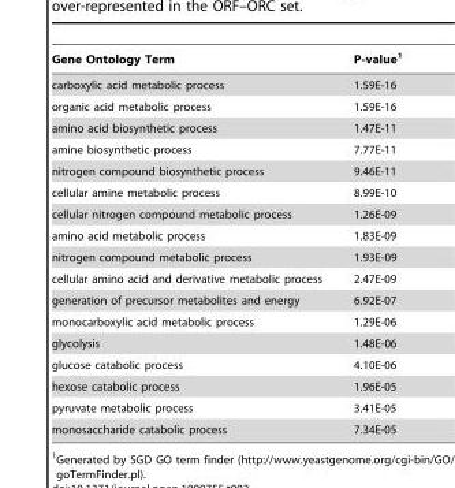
<table><thead><tr><td>Gene Ontology Term</td><td>P-value<sup>1</sup></td></tr></thead><tbody><tr><td>carboxylic acid metabolic process</td><td>1.59E-16</td></tr><tr><td>organic acid metabolic process</td><td>1.59E-16</td></tr><tr><td>amino acid biosynthetic process</td><td>1.47E-11</td></tr><tr><td>amine biosynthetic process</td><td>7.77E-11</td></tr><tr><td>nitrogen compound biosynthetic process</td><td>9.46E-11</td></tr><tr><td>cellular amine metabolic process</td><td>8.99E-10</td></tr><tr><td>cellular nitrogen compound metabolic process</td><td>1.26E-09</td></tr><tr><td>amino acid metabolic process</td><td>1.83E-09</td></tr><tr><td>nitrogen compound metabolic process</td><td>1.93E-09</td></tr><tr><td>cellular amino acid and derivative metabolic process</td><td>2.47E-09</td></tr><tr><td>generation of precursor metabolites and energy</td><td>6.92E-07</td></tr><tr><td>monocarboxylic acid metabolic process</td><td>1.29E-06</td></tr><tr><td>glycolysis</td><td>1.48E-06</td></tr><tr><td>glucose catabolic process</td><td>4.10E-06</td></tr><tr><td>hexose catabolic process</td><td>1.96E-05</td></tr><tr><td>pyruvate metabolic process</td><td>3.41E-05</td></tr><tr><td>monosaccharide catabolic process</td><td>7.34E-05</td></tr></tbody></table>